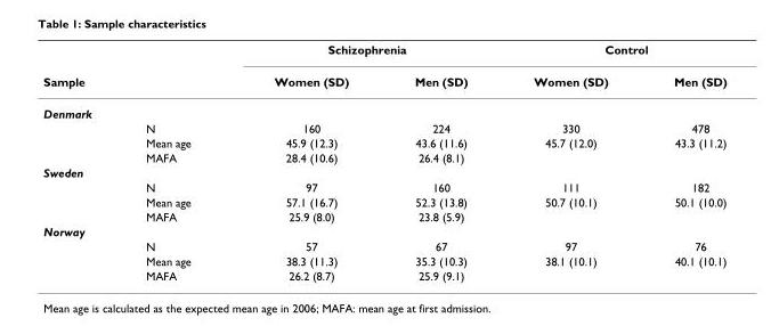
<table><thead><tr><td rowspan="2">Sample</td><td rowspan="2"></td><td colspan="2">Schizophrenia</td><td colspan="2">Control</td></tr><tr><td>Women (SD)</td><td>Men (SD)</td><td>Women (SD)</td><td>Men (SD)</td></tr></thead><tbody><tr><td colspan="6">Denmark</td></tr><tr><td></td><td>N</td><td>160</td><td>224</td><td>330</td><td>478</td></tr><tr><td></td><td>Mean age</td><td>45.9 (12.3)</td><td>43.6 (11.6)</td><td>45.7 (12.0)</td><td>43.3 (11.2)</td></tr><tr><td></td><td>MAFA</td><td>28.4 (10.6)</td><td>26.4 (8.1)</td><td></td><td></td></tr><tr><td colspan="6">Sweden</td></tr><tr><td></td><td>N</td><td>97</td><td>160</td><td>111</td><td>182</td></tr><tr><td></td><td>Mean age</td><td>57.1 (16.7)</td><td>52.3 (13.8)</td><td>50.7 (10.1)</td><td>50.1 (10.0)</td></tr><tr><td></td><td>MAFA</td><td>25.9 (8.0)</td><td>23.8 (5.9)</td><td></td><td></td></tr><tr><td colspan="6">Norway</td></tr><tr><td></td><td>N</td><td>57</td><td>67</td><td>97</td><td>76</td></tr><tr><td></td><td>Mean age</td><td>38.3 (11.3)</td><td>35.3 (10.3)</td><td>38.1 (10.1)</td><td>40.1 (10.1)</td></tr><tr><td></td><td>MAFA</td><td>26.2 (8.7)</td><td>25.9 (9.1)</td><td></td><td></td></tr></tbody></table>